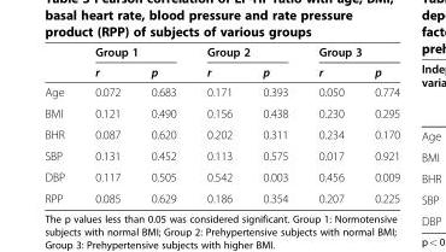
<table><thead><tr><td rowspan="2"></td><td colspan="2">Group 1</td><td colspan="2">Group 2</td><td colspan="2">Group 3</td></tr><tr><td>r</td><td>p</td><td>r</td><td>p</td><td>r</td><td>p</td></tr></thead><tbody><tr><td>Age</td><td>0.072</td><td>0.683</td><td>0.171</td><td>0.393</td><td>0.050</td><td>0.774</td></tr><tr><td>BMI</td><td>0.121</td><td>0.490</td><td>0.156</td><td>0.438</td><td>0.230</td><td>0.295</td></tr><tr><td>BHR</td><td>0.087</td><td>0.620</td><td>0.202</td><td>0.311</td><td>0.234</td><td>0.170</td></tr><tr><td>SBP</td><td>0.131</td><td>0.452</td><td>0.113</td><td>0.575</td><td>0.017</td><td>0.921</td></tr><tr><td>DBP</td><td>0.117</td><td>0.505</td><td>0.542</td><td>0.003</td><td>0.456</td><td>0.009</td></tr><tr><td>RPP</td><td>0.085</td><td>0.629</td><td>0.186</td><td>0.354</td><td>0.207</td><td>0.225</td></tr></tbody></table>